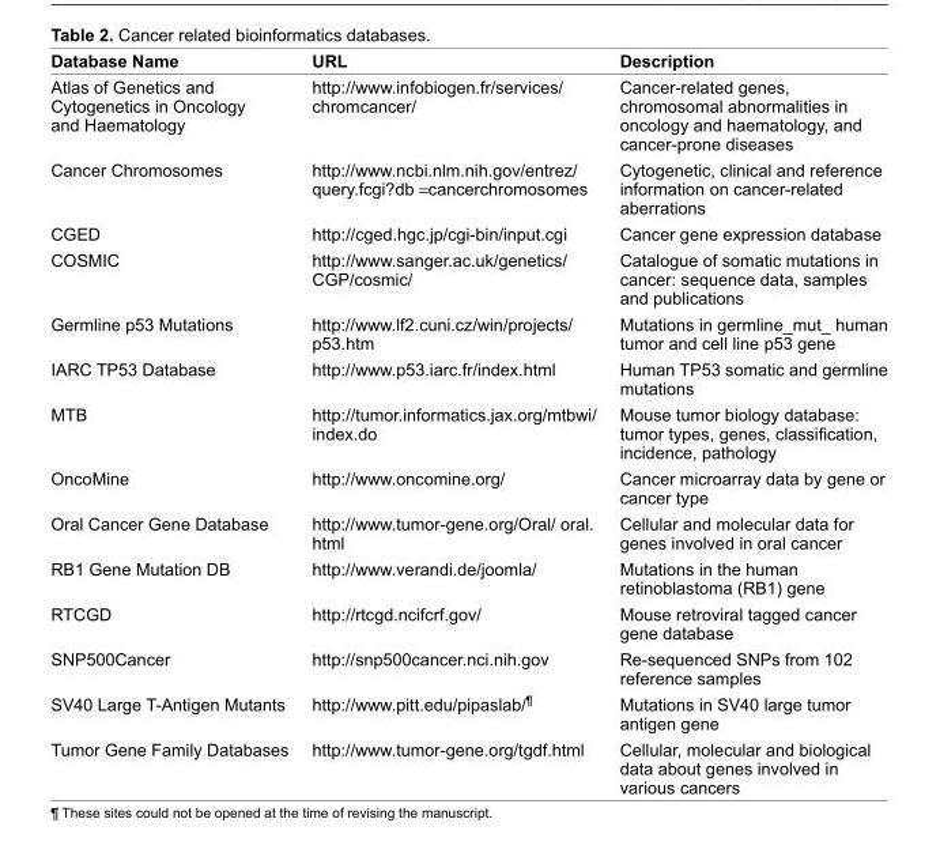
<table><thead><tr><td>Database Name</td><td>URL</td><td>Description</td></tr></thead><tbody><tr><td>Atlas of Genetics and Cytogenetics in Oncology and Haematology</td><td>http://www.infobiogen.fr/services/ chromcancer/</td><td>Cancer-related genes, chromosomal abnormalities in oncology and haematology, and cancer-prone diseases</td></tr><tr><td>Cancer Chromosomes</td><td>http://www.ncbi.nlm.nih.gov/entrez/ query.fcgi?db =cancerchromosomes</td><td>Cytogenetic, clinical and reference information on cancer-related aberrations</td></tr><tr><td>CGED</td><td>http://cged.hgc.jp/cgi-bin/input.cgi</td><td>Cancer gene expression database</td></tr><tr><td>COSMIC</td><td>http://www.sanger.ac.uk/genetics/ CGP/cosmic/</td><td>Catalogue of somatic mutations in cancer: sequence data, samples and publications</td></tr><tr><td>Germline p53 Mutations</td><td>http://www.lf2.cuni.cz/win/projects/ p53.htm</td><td>Mutations in germline_mut_ human tumor and cell line p53 gene</td></tr><tr><td>IARC TP53 Database</td><td>http://www.p53.iarc.fr/index.html</td><td>Human TP53 somatic and germline mutations</td></tr><tr><td>MTB</td><td>http://tumor.informatics.jax.org/mtbwi/ index.do</td><td>Mouse tumor biology database: tumor types, genes, classifi cation, incidence, pathology</td></tr><tr><td>OncoMine</td><td>http://www.oncomine.org/</td><td>Cancer microarray data by gene or cancer type</td></tr><tr><td>Oral Cancer Gene Database</td><td>http://www.tumor-gene.org/Oral/ oral. html</td><td>Cellular and molecular data for genes involved in oral cancer</td></tr><tr><td>RB1 Gene Mutation DB</td><td>http://www.verandi.de/joomla/</td><td>Mutations in the human retinoblastoma (RB1) gene</td></tr><tr><td>RTCGD</td><td>http://rtcgd.ncifcrf.gov/</td><td>Mouse retroviral tagged cancer gene database</td></tr><tr><td>SNP500Cancer</td><td>http://snp500cancer.nci.nih.gov</td><td>Re-sequenced SNPs from 102 reference samples</td></tr><tr><td>SV40 Large T-Antigen Mutants</td><td>http://www.pitt.edu/pipaslab/<sup>¶</sup></td><td>Mutations in SV40 large tumor antigen gene</td></tr><tr><td>Tumor Gene Family Databases</td><td>http://www.tumor-gene.org/tgdf.html</td><td>Cellular, molecular and biological data about genes involved in various cancers</td></tr></tbody></table>